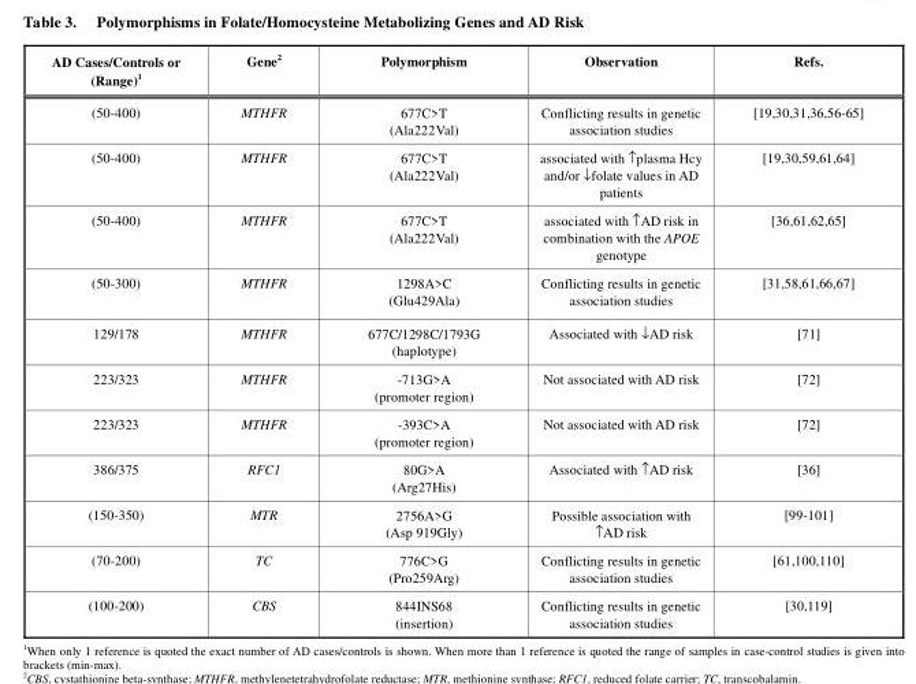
<table><thead><tr><td>AD Cases/Controls or (Range)<sup>1</sup></td><td>Gene<sup>2</sup></td><td>Polymorphism</td><td>Observation</td><td>Refs.</td></tr></thead><tbody><tr><td>(50-400)</td><td>MTHFR</td><td>677C&gt;T (Ala222Val)</td><td>Conflicting results in genetic association studies</td><td>[19,30,31,36,56-65]</td></tr><tr><td>(50-400)</td><td>MTHFR</td><td>677C&gt;T (Ala222Val)</td><td>associated with ↑plasma Hcy and/or ↓folate values in AD patients</td><td>[19,30,59,61,64]</td></tr><tr><td>(50-400)</td><td>MTHFR</td><td>677C&gt;T (Ala222Val)</td><td>associated with ↑AD risk in combination with the APOE genotype</td><td>[36,61,62,65]</td></tr><tr><td>(50-300)</td><td>MTHFR</td><td>1298A&gt;C (Glu429Ala)</td><td>Conflicting results in genetic association studies</td><td>[31,58,61,66,67]</td></tr><tr><td>129/178</td><td>MTHFR</td><td>677C/1298C/1793G (haplotype)</td><td>Associated with ↓AD risk</td><td>[71]</td></tr><tr><td>223/323</td><td>MTHFR</td><td>-713G&gt;A (promoter region)</td><td>Not associated with AD risk</td><td>[72]</td></tr><tr><td>223/323</td><td>MTHFR</td><td>-393C&gt;A (promoter region)</td><td>Not associated with AD risk</td><td>[72]</td></tr><tr><td>386/375</td><td>RFC1</td><td>80G&gt;A (Arg27His)</td><td>Associated with ↑AD risk</td><td>[36]</td></tr><tr><td>(150-350)</td><td>MTR</td><td>2756A&gt;G (Asp 919Gly)</td><td>Possible association with ↑AD risk</td><td>[99-101]</td></tr><tr><td>(70-200)</td><td>TC</td><td>776C&gt;G (Pro259Arg)</td><td>Conflicting results in genetic association studies</td><td>[61,100,110]</td></tr><tr><td>(100-200)</td><td>CBS</td><td>844INS68 (insertion)</td><td>Conflicting results in genetic association studies</td><td>[30,119]</td></tr></tbody></table>